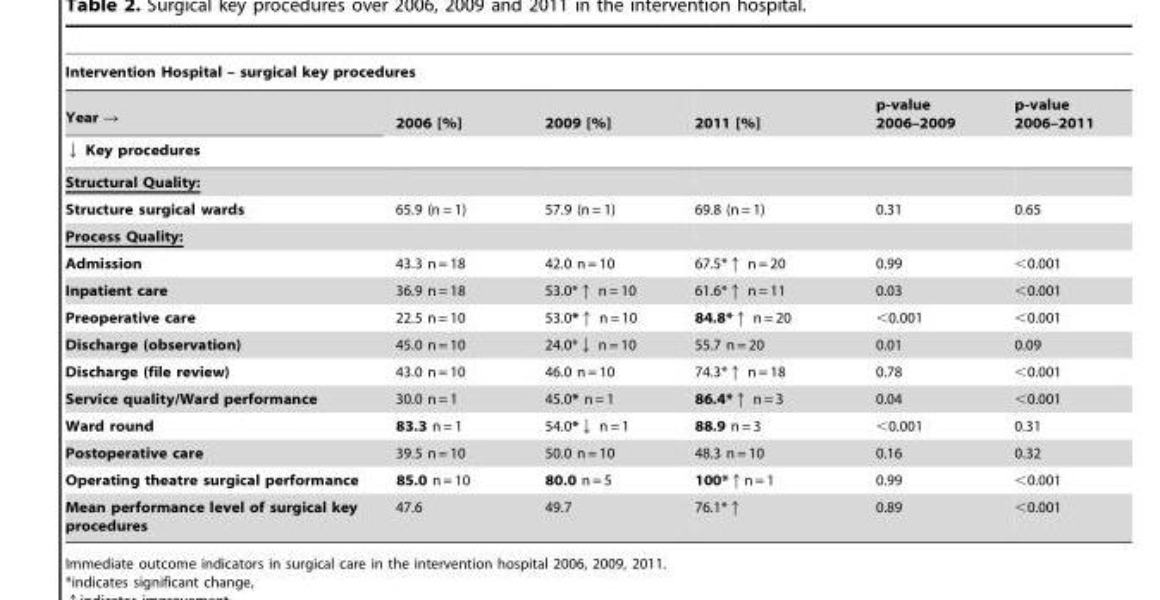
<table><thead><tr><td colspan="6">Intervention Hospital – surgical key procedures</td></tr><tr><td rowspan="2">Year → ↓ Key procedures</td><td rowspan="2">2006 [%]</td><td rowspan="2">2009 [%]</td><td rowspan="2">2011 [%]</td><td rowspan="2">p-value 2006–2009</td><td rowspan="2">p-value 2006–2011</td></tr><tr></tr></thead><tbody><tr><td colspan="6">Structural Quality:</td></tr><tr><td>Structure surgical wards</td><td>65.9 (n = 1)</td><td>57.9 (n = 1)</td><td>69.8 (n = 1)</td><td>0.31</td><td>0.65</td></tr><tr><td colspan="6">Process Quality:</td></tr><tr><td>Admission</td><td>43.3 n = 18</td><td>42.0 n = 10</td><td>67.5*↑ n = 20</td><td>0.99</td><td>&lt;0.001</td></tr><tr><td>Inpatient care</td><td>36.9 n = 18</td><td>53.0*↑ n = 10</td><td>61.6*↑ n = 11</td><td>0.03</td><td>&lt;0.001</td></tr><tr><td>Preoperative care</td><td>22.5 n = 10</td><td>53.0*↑ n = 10</td><td>84.8*↑ n = 20</td><td>&lt;0.001</td><td>&lt;0.001</td></tr><tr><td>Discharge (observation)</td><td>45.0 n = 10</td><td>24.0*↓ n = 10</td><td>55.7 n = 20</td><td>0.01</td><td>0.09</td></tr><tr><td>Discharge (file review)</td><td>43.0 n = 10</td><td>46.0 n = 10</td><td>74.3*↑ n = 18</td><td>0.78</td><td>&lt;0.001</td></tr><tr><td>Service quality/Ward performance</td><td>30.0 n = 1</td><td>45.0* n = 1</td><td>86.4*↑ n = 3</td><td>0.04</td><td>&lt;0.001</td></tr><tr><td>Ward round</td><td>83.3 n = 1</td><td>54.0*↓ n = 1</td><td>88.9 n = 3</td><td>&lt;0.001</td><td>0.31</td></tr><tr><td>Postoperative care</td><td>39.5 n = 10</td><td>50.0 n = 10</td><td>48.3 n = 10</td><td>0.16</td><td>0.32</td></tr><tr><td>Operating theatre surgical performance</td><td>85.0 n = 10</td><td>80.0 n = 5</td><td>100*↑n = 1</td><td>0.99</td><td>&lt;0.001</td></tr><tr><td>Mean performance level of surgical key procedures</td><td>47.6</td><td>49.7</td><td>76.1*↑</td><td>0.89</td><td>&lt;0.001</td></tr></tbody></table>